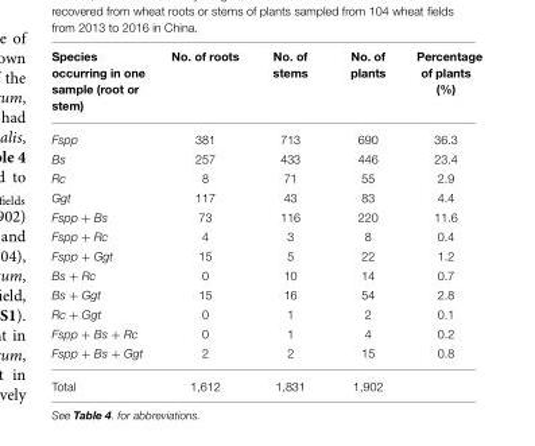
<table><thead><tr><td>Species occurring in one sample (root or stem)</td><td>No. of roots</td><td>No. of stems</td><td>No. of plants</td><td>Percentage of plants (%)</td></tr></thead><tbody><tr><td>Fspp</td><td>381</td><td>713</td><td>690</td><td>36.3</td></tr><tr><td>Bs</td><td>257</td><td>433</td><td>446</td><td>23.4</td></tr><tr><td>Rc</td><td>8</td><td>71</td><td>55</td><td>2.9</td></tr><tr><td>Ggt</td><td>117</td><td>43</td><td>83</td><td>4.4</td></tr><tr><td>Fspp + Bs</td><td>73</td><td>116</td><td>220</td><td>11.6</td></tr><tr><td>Fspp + Rc</td><td>4</td><td>3</td><td>8</td><td>0.4</td></tr><tr><td>Fspp + Ggt</td><td>15</td><td>5</td><td>22</td><td>1.2</td></tr><tr><td>Bs + Rc</td><td>0</td><td>10</td><td>14</td><td>0.7</td></tr><tr><td>Bs + Ggt</td><td>15</td><td>16</td><td>54</td><td>2.8</td></tr><tr><td>Rc + Ggt</td><td>0</td><td>1</td><td>2</td><td>0.1</td></tr><tr><td>Fspp + Bs + Rc</td><td>0</td><td>1</td><td>4</td><td>0.2</td></tr><tr><td>Fspp + Bs + Ggt</td><td>2</td><td>2</td><td>15</td><td>0.8</td></tr><tr><td>Total</td><td>1,612</td><td>1,831</td><td>1,902</td><td></td></tr></tbody></table>